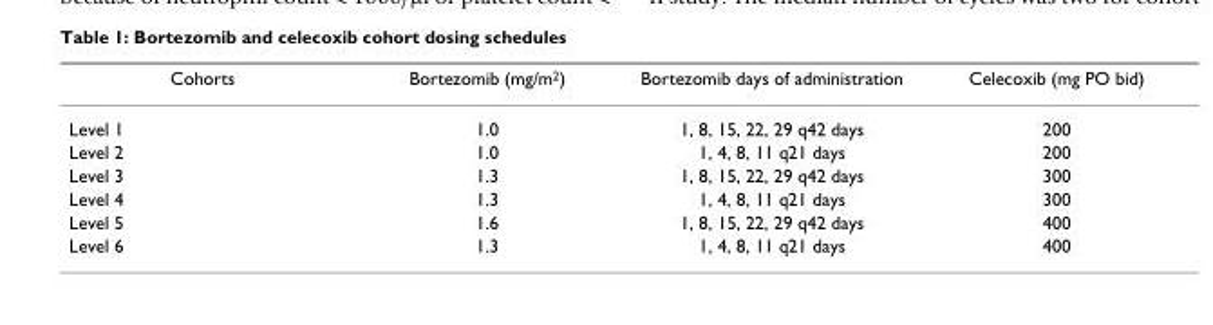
<table><thead><tr><td>Cohorts</td><td>Bortezomib (mg/m<sup>2</sup>)</td><td>Bortezomib days of administration</td><td>Celecoxib (mg PO bid)</td></tr></thead><tbody><tr><td>Level 1</td><td>1.0</td><td>1, 8, 15, 22, 29 q42 days</td><td>200</td></tr><tr><td>Level 2</td><td>1.0</td><td>1, 4, 8, 11 q21 days</td><td>200</td></tr><tr><td>Level 3</td><td>1.3</td><td>1, 8, 15, 22, 29 q42 days</td><td>300</td></tr><tr><td>Level 4</td><td>1.3</td><td>1, 4, 8, 11 q21 days</td><td>300</td></tr><tr><td>Level 5</td><td>1.6</td><td>1, 8, 15, 22, 29 q42 days</td><td>400</td></tr><tr><td>Level 6</td><td>1.3</td><td>1, 4, 8, 11 q21 days</td><td>400</td></tr></tbody></table>